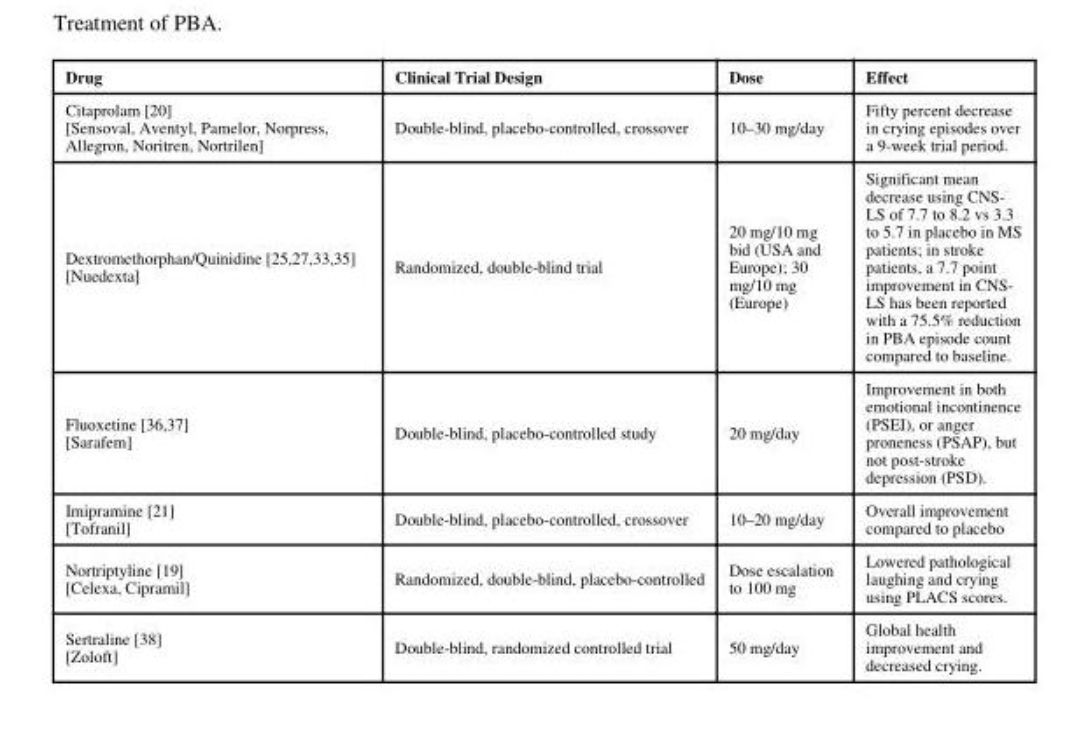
<table><thead><tr><td>Drug</td><td>Clinical Trial Design</td><td>Dose</td><td>Effect</td></tr></thead><tbody><tr><td>Citaprolam [20] [Sensoval, Aventyl, Pamelor, Norpress, Allegron, Noritren, Nortrilen]</td><td>Double-blind, placebo-controlled, crossover</td><td>10–30 mg/day</td><td>Fifty percent decrease in crying episodes over a 9-week trial period.</td></tr><tr><td>Dextromethorphan/Quinidine [25,27,33,35] [Nuedexta]</td><td>Randomized, double-blind trial</td><td>20 mg/10 mg bid (USA and Europe); 30 mg/10 mg (Europe)</td><td>Significant mean decrease using CNS- LS of 7.7 to 8.2 vs 3.3 to 5.7 in placebo in MS patients; in stroke patients, a 7.7 point improvement in CNS- LS has been reported with a 75.5% reduction in PBA episode count compared to baseline.</td></tr><tr><td>Fluoxetine [36,37] [Sarafem]</td><td>Double-blind, placebo-controlled study</td><td>20 mg/day</td><td>Improvement in both emotional incontinence (PSEI), or anger proneness (PSAP), but not post-stroke depression (PSD).</td></tr><tr><td>Imipramine [21] [Tofranil]</td><td>Double-blind, placebo-controlled, crossover</td><td>10–20 mg/day</td><td>Overall improvement compared to placebo</td></tr><tr><td>Nortriptyline [19] [Celexa, Cipramil]</td><td>Randomized, double-blind, placebo-controlled</td><td>Dose escalation to 100 mg</td><td>Lowered pathological laughing and crying using PLACS scores.</td></tr><tr><td>Sertraline [38] [Zoloft]</td><td>Double-blind, randomized controlled trial</td><td>50 mg/day</td><td>Global health improvement and decreased crying.</td></tr></tbody></table>